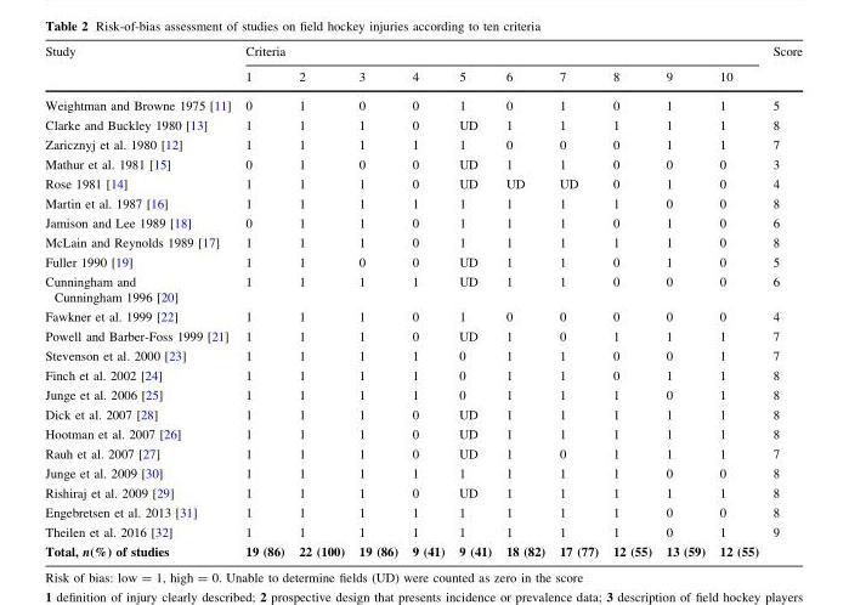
<table><thead><tr><td rowspan="2">Study</td><td colspan="10">Criteria</td><td rowspan="2">Score</td></tr><tr><td>1</td><td>2</td><td>3</td><td>4</td><td>5</td><td>6</td><td>7</td><td>8</td><td>9</td><td>10</td></tr></thead><tbody><tr><td>Weightman and Browne 1975 [11]</td><td>0</td><td>1</td><td>0</td><td>0</td><td>1</td><td>0</td><td>1</td><td>0</td><td>1</td><td>1</td><td>5</td></tr><tr><td>Clarke and Buckley 1980 [13]</td><td>1</td><td>1</td><td>1</td><td>0</td><td>UD</td><td>1</td><td>1</td><td>1</td><td>1</td><td>1</td><td>8</td></tr><tr><td>Zaricznyj et al. 1980 [12]</td><td>1</td><td>1</td><td>1</td><td>1</td><td>1</td><td>0</td><td>0</td><td>0</td><td>1</td><td>1</td><td>7</td></tr><tr><td>Mathur et al. 1981 [15]</td><td>0</td><td>1</td><td>0</td><td>0</td><td>UD</td><td>1</td><td>1</td><td>0</td><td>0</td><td>0</td><td>3</td></tr><tr><td>Rose 1981 [14]</td><td>1</td><td>1</td><td>1</td><td>0</td><td>UD</td><td>UD</td><td>UD</td><td>0</td><td>1</td><td>0</td><td>4</td></tr><tr><td>Martin et al. 1987 [16]</td><td>1</td><td>1</td><td>1</td><td>1</td><td>1</td><td>1</td><td>1</td><td>1</td><td>0</td><td>0</td><td>8</td></tr><tr><td>Jamison and Lee 1989 [18]</td><td>0</td><td>1</td><td>1</td><td>0</td><td>1</td><td>1</td><td>1</td><td>0</td><td>1</td><td>0</td><td>6</td></tr><tr><td>McLain and Reynolds 1989 [17]</td><td>1</td><td>1</td><td>1</td><td>0</td><td>1</td><td>1</td><td>1</td><td>1</td><td>1</td><td>0</td><td>8</td></tr><tr><td>Fuller 1990 [19]</td><td>1</td><td>1</td><td>0</td><td>0</td><td>UD</td><td>1</td><td>1</td><td>0</td><td>1</td><td>0</td><td>5</td></tr><tr><td>Cunningham and Cunningham 1996 [20]</td><td>1</td><td>1</td><td>1</td><td>1</td><td>UD</td><td>1</td><td>1</td><td>0</td><td>0</td><td>0</td><td>6</td></tr><tr><td>Fawkner et al. 1999 [22]</td><td>1</td><td>1</td><td>1</td><td>0</td><td>1</td><td>0</td><td>0</td><td>0</td><td>0</td><td>0</td><td>4</td></tr><tr><td>Powell and Barber-Foss 1999 [21]</td><td>1</td><td>1</td><td>1</td><td>0</td><td>UD</td><td>1</td><td>0</td><td>1</td><td>1</td><td>1</td><td>7</td></tr><tr><td>Stevenson et al. 2000 [23]</td><td>1</td><td>1</td><td>1</td><td>1</td><td>0</td><td>1</td><td>1</td><td>0</td><td>0</td><td>1</td><td>7</td></tr><tr><td>Finch et al. 2002 [24]</td><td>1</td><td>1</td><td>1</td><td>1</td><td>0</td><td>1</td><td>1</td><td>0</td><td>1</td><td>1</td><td>8</td></tr><tr><td>Junge et al. 2006 [25]</td><td>1</td><td>1</td><td>1</td><td>1</td><td>0</td><td>1</td><td>1</td><td>1</td><td>0</td><td>1</td><td>8</td></tr><tr><td>Dick et al. 2007 [28]</td><td>1</td><td>1</td><td>1</td><td>0</td><td>UD</td><td>1</td><td>1</td><td>1</td><td>1</td><td>1</td><td>8</td></tr><tr><td>Hootman et al. 2007 [26]</td><td>1</td><td>1</td><td>1</td><td>0</td><td>UD</td><td>1</td><td>1</td><td>1</td><td>1</td><td>1</td><td>8</td></tr><tr><td>Rauh et al. 2007 [27]</td><td>1</td><td>1</td><td>1</td><td>0</td><td>UD</td><td>1</td><td>0</td><td>1</td><td>1</td><td>1</td><td>7</td></tr><tr><td>Junge et al. 2009 [30]</td><td>1</td><td>1</td><td>1</td><td>1</td><td>1</td><td>1</td><td>1</td><td>1</td><td>0</td><td>0</td><td>8</td></tr><tr><td>Rishiraj et al. 2009 [29]</td><td>1</td><td>1</td><td>1</td><td>0</td><td>UD</td><td>1</td><td>1</td><td>1</td><td>1</td><td>1</td><td>8</td></tr><tr><td>Engebretsen et al. 2013 [31]</td><td>1</td><td>1</td><td>1</td><td>1</td><td>1</td><td>1</td><td>1</td><td>1</td><td>0</td><td>0</td><td>8</td></tr><tr><td>Theilen et al. 2016 [32]</td><td>1</td><td>1</td><td>1</td><td>1</td><td>1</td><td>1</td><td>1</td><td>1</td><td>0</td><td>1</td><td>9</td></tr><tr><td>Total, n(%) of studies</td><td>19 (86)</td><td>22 (100)</td><td>19 (86)</td><td>9 (41)</td><td>9 (41)</td><td>18 (82)</td><td>17 (77)</td><td>12 (55)</td><td>13 (59)</td><td>12 (55)</td><td></td></tr></tbody></table>